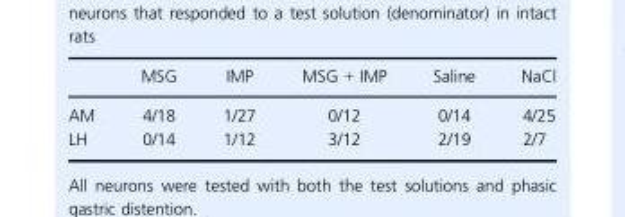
<table><thead><tr><td></td><td>MSG</td><td>IMP</td><td>MSG + IMP</td><td>Saline</td><td>NaCl</td></tr></thead><tbody><tr><td>AM</td><td>4/18</td><td>1/27</td><td>0/12</td><td>0/14</td><td>4/25</td></tr><tr><td>LH</td><td>0/14</td><td>1/12</td><td>3/12</td><td>2/19</td><td>2/7</td></tr></tbody></table>